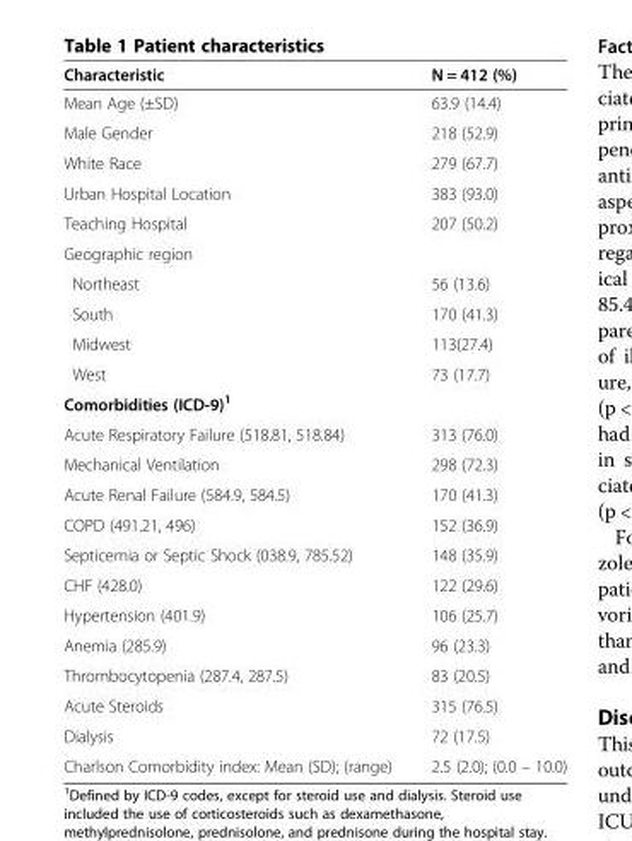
<table><thead><tr><td>Characteristic</td><td>N = 412 (%)</td></tr></thead><tbody><tr><td>Mean Age (±SD)</td><td>63.9 (14.4)</td></tr><tr><td>Male Gender</td><td>218 (52.9)</td></tr><tr><td>White Race</td><td>279 (67.7)</td></tr><tr><td>Urban Hospital Location</td><td>383 (93.0)</td></tr><tr><td>Teaching Hospital</td><td>207 (50.2)</td></tr><tr><td colspan="2">Geographic region</td></tr><tr><td>Northeast</td><td>56 (13.6)</td></tr><tr><td>South</td><td>170 (41.3)</td></tr><tr><td>Midwest</td><td>113(27.4)</td></tr><tr><td>West</td><td>73 (17.7)</td></tr><tr><td colspan="2">Comorbidities (ICD-9)<sup>1</sup></td></tr><tr><td>Acute Respiratory Failure (518.81, 518.84)</td><td>313 (76.0)</td></tr><tr><td>Mechanical Ventilation</td><td>298 (72.3)</td></tr><tr><td>Acute Renal Failure (584.9, 584.5)</td><td>170 (41.3)</td></tr><tr><td>COPD (491.21, 496)</td><td>152 (36.9)</td></tr><tr><td>Septicemia or Septic Shock (038.9, 785.52)</td><td>148 (35.9)</td></tr><tr><td>CHF (428.0)</td><td>122 (29.6)</td></tr><tr><td>Hypertension (401.9)</td><td>106 (25.7)</td></tr><tr><td>Anemia (285.9)</td><td>96 (23.3)</td></tr><tr><td>Thrombocytopenia (287.4, 287.5)</td><td>83 (20.5)</td></tr><tr><td>Acute Steroids</td><td>315 (76.5)</td></tr><tr><td>Dialysis</td><td>72 (17.5)</td></tr><tr><td>Charlson Comorbidity index: Mean (SD); (range)</td><td>2.5 (2.0); (0.0 – 10.0)</td></tr></tbody></table>